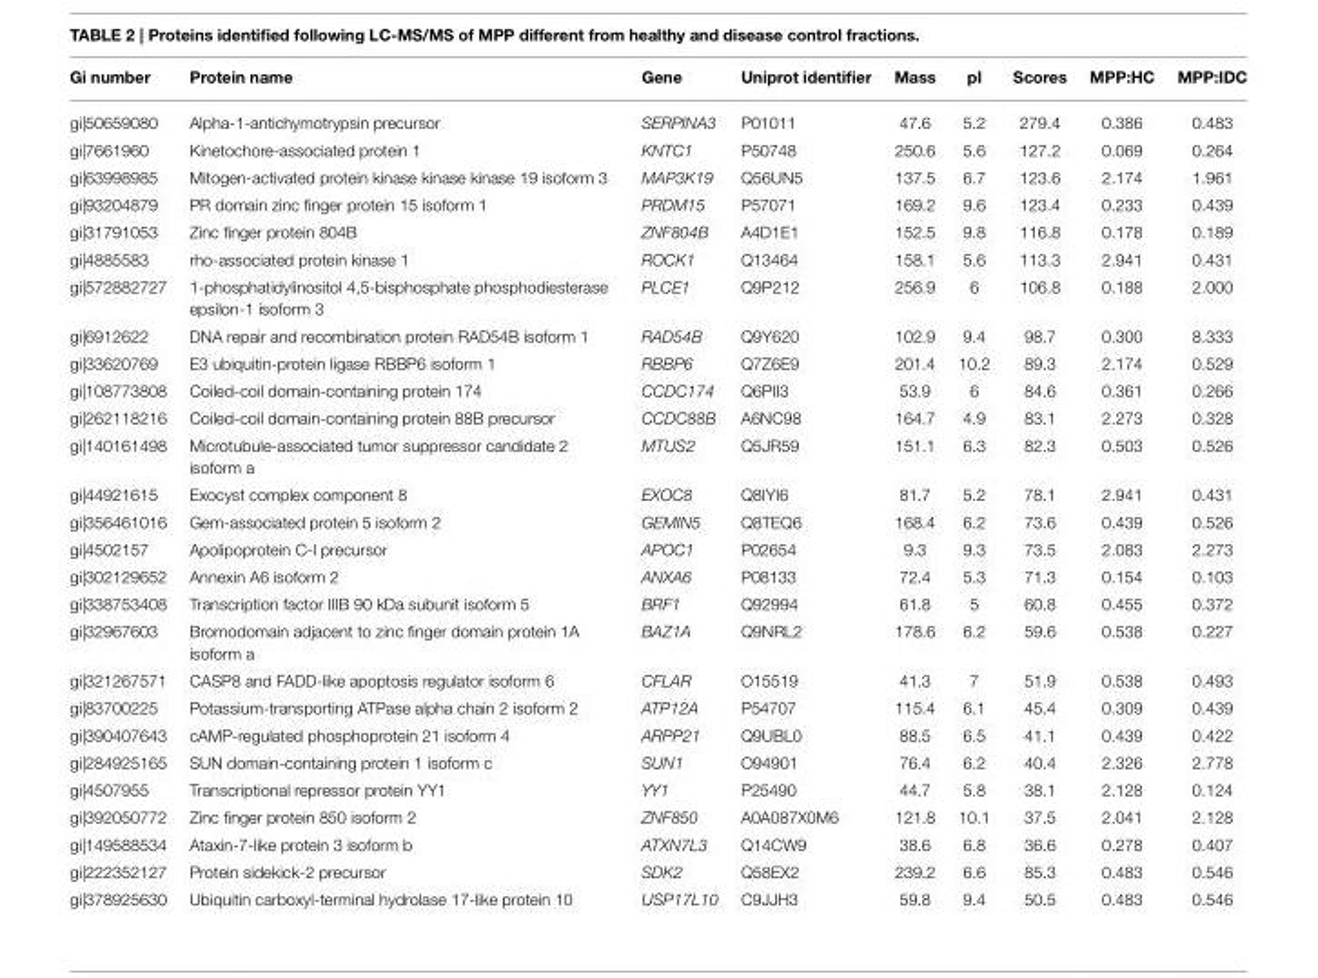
<table><thead><tr><td>Gi number</td><td>Protein name</td><td>Gene</td><td>Uniprot identifier</td><td>Mass</td><td>pI</td><td>Scores</td><td>MPP:HC</td><td>MPP:IDC</td></tr></thead><tbody><tr><td>gi|50659080</td><td>Alpha-1-antichymotrypsin precursor</td><td>SERPINA3</td><td>P01011</td><td>47.6</td><td>5.2</td><td>279.4</td><td>0.386</td><td>0.483</td></tr><tr><td>gi|7661960</td><td>Kinetochore-associated protein 1</td><td>KNTC1</td><td>P50748</td><td>250.6</td><td>5.6</td><td>127.2</td><td>0.069</td><td>0.264</td></tr><tr><td>gi|63998985</td><td>Mitogen-activated protein kinase kinase kinase 19 isoform 3</td><td>MAP3K19</td><td>Q56UN5</td><td>137.5</td><td>6.7</td><td>123.6</td><td>2.174</td><td>1.961</td></tr><tr><td>gi|93204879</td><td>PR domain zinc finger protein 15 isoform 1</td><td>PRDM15</td><td>P57071</td><td>169.2</td><td>9.6</td><td>123.4</td><td>0.233</td><td>0.439</td></tr><tr><td>gi|31791053</td><td>Zinc finger protein 804B</td><td>ZNF804B</td><td>A4D1E1</td><td>152.5</td><td>9.8</td><td>116.8</td><td>0.178</td><td>0.189</td></tr><tr><td>gi|4885583</td><td>rho-associated protein kinase 1</td><td>ROCK1</td><td>Q13464</td><td>158.1</td><td>5.6</td><td>113.3</td><td>2.941</td><td>0.431</td></tr><tr><td>gi|572882727</td><td>1-phosphatidylinositol 4,5-bisphosphate phosphodiesterase epsilon-1 isoform 3</td><td>PLCE1</td><td>Q9P212</td><td>256.9</td><td>6</td><td>106.8</td><td>0.188</td><td>2.000</td></tr><tr><td>gi|6912622</td><td>DNA repair and recombination protein RAD54B isoform 1</td><td>RAD54B</td><td>Q9Y620</td><td>102.9</td><td>9.4</td><td>98.7</td><td>0.300</td><td>8.333</td></tr><tr><td>gi|33620769</td><td>E3 ubiquitin-protein ligase RBBP6 isoform 1</td><td>RBBP6</td><td>Q7Z6E9</td><td>201.4</td><td>10.2</td><td>89.3</td><td>2.174</td><td>0.529</td></tr><tr><td>gi|108773808</td><td>Coiled-coil domain-containing protein 174</td><td>CCDC174</td><td>Q6PII3</td><td>53.9</td><td>6</td><td>84.6</td><td>0.361</td><td>0.266</td></tr><tr><td>gi|262118216</td><td>Coiled-coil domain-containing protein 88B precursor</td><td>CCDC88B</td><td>A6NC98</td><td>164.7</td><td>4.9</td><td>83.1</td><td>2.273</td><td>0.328</td></tr><tr><td>gi|140161498</td><td>Microtubule-associated tumor suppressor candidate 2 isoform a</td><td>MTUS2</td><td>Q5JR59</td><td>151.1</td><td>6.3</td><td>82.3</td><td>0.503</td><td>0.526</td></tr><tr><td>gi|44921615</td><td>Exocyst complex component 8</td><td>EXOC8</td><td>Q8IYI6</td><td>81.7</td><td>5.2</td><td>78.1</td><td>2.941</td><td>0.431</td></tr><tr><td>gi|356461016</td><td>Gem-associated protein 5 isoform 2</td><td>GEMIN5</td><td>Q8TEQ6</td><td>168.4</td><td>6.2</td><td>73.6</td><td>0.439</td><td>0.526</td></tr><tr><td>gi|4502157</td><td>Apolipoprotein C-I precursor</td><td>APOC1</td><td>P02654</td><td>9.3</td><td>9.3</td><td>73.5</td><td>2.083</td><td>2.273</td></tr><tr><td>gi|302129652</td><td>Annexin A6 isoform 2</td><td>ANXA6</td><td>P08133</td><td>72.4</td><td>5.3</td><td>71.3</td><td>0.154</td><td>0.103</td></tr><tr><td>gi|338753408</td><td>Transcription factor IIIB 90 kDa subunit isoform 5</td><td>BRF1</td><td>Q92994</td><td>61.8</td><td>5</td><td>60.8</td><td>0.455</td><td>0.372</td></tr><tr><td>gi|32967603</td><td>Bromodomain adjacent to zinc finger domain protein 1A isoform a</td><td>BAZ1A</td><td>Q9NRL2</td><td>178.6</td><td>6.2</td><td>59.6</td><td>0.538</td><td>0.227</td></tr><tr><td>gi|321267571</td><td>CASP8 and FADD-like apoptosis regulator isoform 6</td><td>CFLAR</td><td>O15519</td><td>41.3</td><td>7</td><td>51.9</td><td>0.538</td><td>0.493</td></tr><tr><td>gi|83700225</td><td>Potassium-transporting ATPase alpha chain 2 isoform 2</td><td>ATP12A</td><td>P54707</td><td>115.4</td><td>6.1</td><td>45.4</td><td>0.309</td><td>0.439</td></tr><tr><td>gi|390407643</td><td>cAMP-regulated phosphoprotein 21 isoform 4</td><td>ARPP21</td><td>Q9UBL0</td><td>88.5</td><td>6.5</td><td>41.1</td><td>0.439</td><td>0.422</td></tr><tr><td>gi|284925165</td><td>SUN domain-containing protein 1 isoform c</td><td>SUN1</td><td>O94901</td><td>76.4</td><td>6.2</td><td>40.4</td><td>2.326</td><td>2.778</td></tr><tr><td>gi|4507955</td><td>Transcriptional repressor protein YY1</td><td>YY1</td><td>P25490</td><td>44.7</td><td>5.8</td><td>38.1</td><td>2.128</td><td>0.124</td></tr><tr><td>gi|392050772</td><td>Zinc finger protein 850 isoform 2</td><td>ZNF850</td><td>A0A087X0M6</td><td>121.8</td><td>10.1</td><td>37.5</td><td>2.041</td><td>2.128</td></tr><tr><td>gi|149588534</td><td>Ataxin-7-like protein 3 isoform b</td><td>ATXN7L3</td><td>Q14CW9</td><td>38.6</td><td>6.8</td><td>36.6</td><td>0.278</td><td>0.407</td></tr><tr><td>gi|222352127</td><td>Protein sidekick-2 precursor</td><td>SDK2</td><td>Q58EX2</td><td>239.2</td><td>6.6</td><td>85.3</td><td>0.483</td><td>0.546</td></tr><tr><td>gi|378925630</td><td>Ubiquitin carboxyl-terminal hydrolase 17-like protein 10</td><td>USP17L10</td><td>C9JJH3</td><td>59.8</td><td>9.4</td><td>50.5</td><td>0.483</td><td>0.546</td></tr></tbody></table>